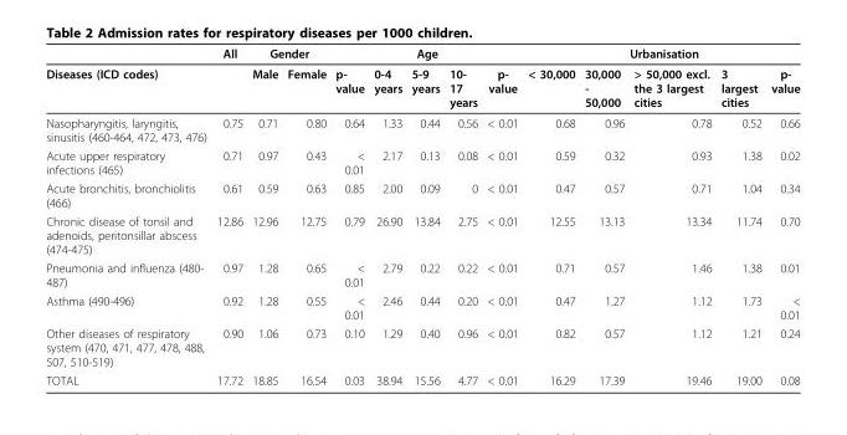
<table><thead><tr><td rowspan="2">Diseases (ICD codes)</td><td rowspan="2">All</td><td colspan="2">Gender</td><td colspan="5">Age</td><td colspan="5">Urbanisation</td></tr><tr><td>Male</td><td>Female</td><td>p- value</td><td>0-4 years</td><td>5-9 years</td><td>10- 17 years</td><td>p- value</td><td>&lt; 30,000</td><td>30,000 - 50,000</td><td>&gt; 50,000 excl. the 3 largest cities</td><td>3 largest cities</td><td>p- value</td></tr></thead><tbody><tr><td>Nasopharyngitis, laryngitis, sinusitis (460-464, 472, 473, 476)</td><td>0.75</td><td>0.71</td><td>0.80</td><td>0.64</td><td>1.33</td><td>0.44</td><td>0.56</td><td>&lt; 0.01</td><td>0.68</td><td>0.96</td><td>0.78</td><td>0.52</td><td>0.66</td></tr><tr><td>Acute upper respiratory infections (465)</td><td>0.71</td><td>0.97</td><td>0.43</td><td>&lt; 0.01</td><td>2.17</td><td>0.13</td><td>0.08</td><td>&lt; 0.01</td><td>0.59</td><td>0.32</td><td>0.93</td><td>1.38</td><td>0.02</td></tr><tr><td>Acute bronchitis, bronchiolitis (466)</td><td>0.61</td><td>0.59</td><td>0.63</td><td>0.85</td><td>2.00</td><td>0.09</td><td>0</td><td>&lt; 0.01</td><td>0.47</td><td>0.57</td><td>0.71</td><td>1.04</td><td>0.34</td></tr><tr><td>Chronic disease of tonsil and adenoids, peritonsillar abscess (474-475)</td><td>12.86</td><td>12.96</td><td>12.75</td><td>0.79</td><td>26.90</td><td>13.84</td><td>2.75</td><td>&lt; 0.01</td><td>12.55</td><td>13.13</td><td>13.34</td><td>11.74</td><td>0.70</td></tr><tr><td>Pneumonia and influenza (480- 487)</td><td>0.97</td><td>1.28</td><td>0.65</td><td>&lt; 0.01</td><td>2.79</td><td>0.22</td><td>0.22</td><td>&lt; 0.01</td><td>0.71</td><td>0.57</td><td>1.46</td><td>1.38</td><td>0.01</td></tr><tr><td>Asthma (490-496)</td><td>0.92</td><td>1.28</td><td>0.55</td><td>&lt; 0.01</td><td>2.46</td><td>0.44</td><td>0.20</td><td>&lt; 0.01</td><td>0.47</td><td>1.27</td><td>1.12</td><td>1.73</td><td>&lt; 0.01</td></tr><tr><td>Other diseases of respiratory system (470, 471, 477, 478, 488, 507, 510-519)</td><td>0.90</td><td>1.06</td><td>0.73</td><td>0.10</td><td>1.29</td><td>0.40</td><td>0.96</td><td>&lt; 0.01</td><td>0.82</td><td>0.57</td><td>1.12</td><td>1.21</td><td>0.24</td></tr><tr><td>TOTAL</td><td>17.72</td><td>18.85</td><td>16.54</td><td>0.03</td><td>38.94</td><td>15.56</td><td>4.77</td><td>&lt; 0.01</td><td>16.29</td><td>17.39</td><td>19.46</td><td>19.00</td><td>0.08</td></tr></tbody></table>